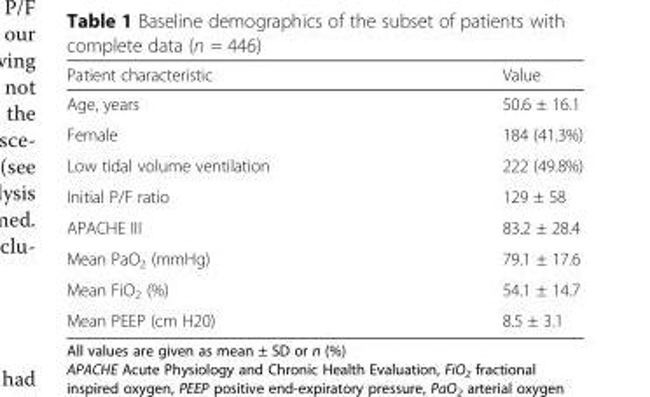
<table><thead><tr><td>Patient characteristic</td><td>Value</td></tr></thead><tbody><tr><td>Age, years</td><td>50.6 ± 16.1</td></tr><tr><td>Female</td><td>184 (41.3%)</td></tr><tr><td>Low tidal volume ventilation</td><td>222 (49.8%)</td></tr><tr><td>Initial P/F ratio</td><td>129 ± 58</td></tr><tr><td>APACHE III</td><td>83.2 ± 28.4</td></tr><tr><td>Mean PaO<sub>2</sub> (mmHg)</td><td>79.1 ± 17.6</td></tr><tr><td>Mean FiO<sub>2</sub> (%)</td><td>54.1 ± 14.7</td></tr><tr><td>Mean PEEP (cm H20)</td><td>8.5 ± 3.1</td></tr></tbody></table>